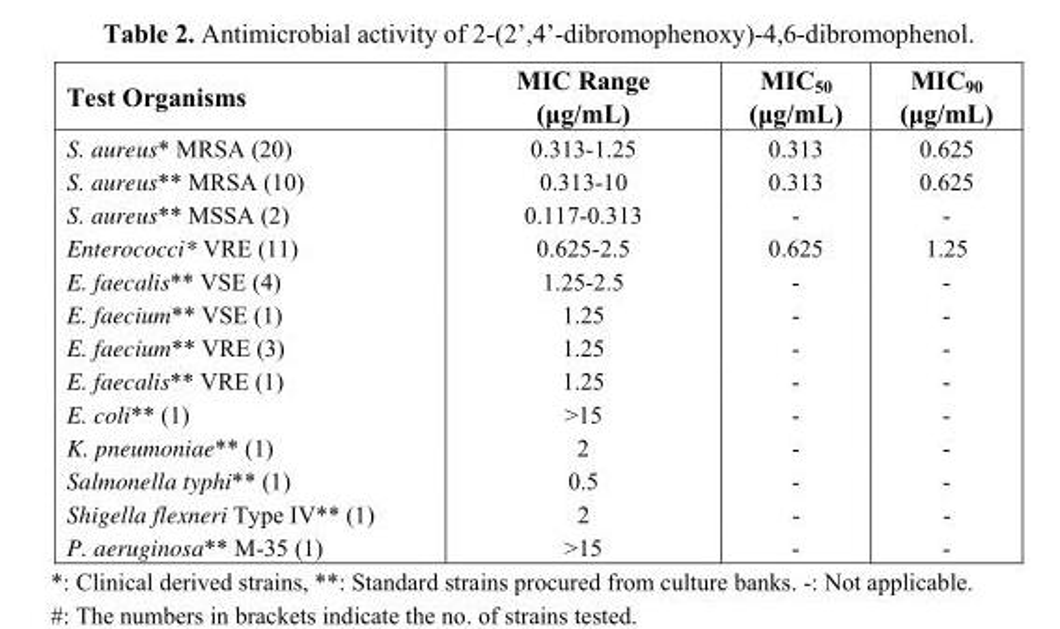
<table><thead><tr><td>Test Organisms</td><td>MIC Range (μg/mL)</td><td>MIC<sub>50</sub> (μg/mL)</td><td>MIC<sub>90</sub> (μg/mL)</td></tr></thead><tbody><tr><td>S. aureus* MRSA (20)</td><td>0.313-1.25</td><td>0.313</td><td>0.625</td></tr><tr><td>S. aureus** MRSA (10)</td><td>0.313-10</td><td>0.313</td><td>0.625</td></tr><tr><td>S. aureus** MSSA (2)</td><td>0.117-0.313</td><td>-</td><td>-</td></tr><tr><td>Enterococci* VRE (11)</td><td>0.625-2.5</td><td>0.625</td><td>1.25</td></tr><tr><td>E. faecalis** VSE (4)</td><td>1.25-2.5</td><td>-</td><td>-</td></tr><tr><td>E. faecium** VSE (1)</td><td>1.25</td><td>-</td><td>-</td></tr><tr><td>E. faecium** VRE (3)</td><td>1.25</td><td>-</td><td>-</td></tr><tr><td>E. faecalis** VRE (1)</td><td>1.25</td><td>-</td><td>-</td></tr><tr><td>E. coli** (1)</td><td>&gt;15</td><td>-</td><td>-</td></tr><tr><td>K. pneumoniae** (1)</td><td>2</td><td>-</td><td>-</td></tr><tr><td>Salmonella typhi** (1)</td><td>0.5</td><td>-</td><td>-</td></tr><tr><td>Shigella flexneri Type IV** (1)</td><td>2</td><td>-</td><td>-</td></tr><tr><td>P. aeruginosa** M-35 (1)</td><td>&gt;15</td><td>-</td><td>-</td></tr></tbody></table>